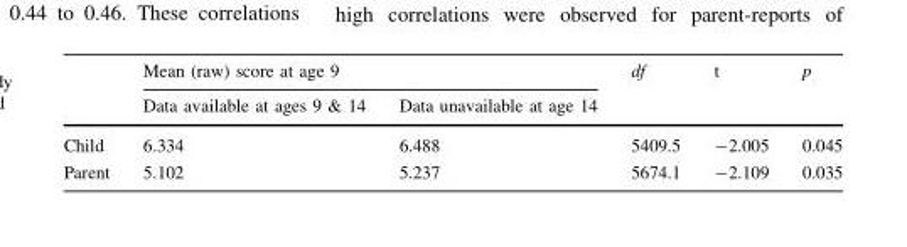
<table><thead><tr><td rowspan="2"></td><td colspan="2">Mean (raw) score at age 9</td><td rowspan="2">df</td><td rowspan="2">t</td><td rowspan="2">p</td></tr><tr><td>Data available at ages 9 &amp; 14</td><td>Data unavailable at age 14</td></tr></thead><tbody><tr><td>Child</td><td>6.334</td><td>6.488</td><td>5409.5</td><td>-2.005</td><td>0.045</td></tr><tr><td>Parent</td><td>5.102</td><td>5.237</td><td>5674.1</td><td>-2.109</td><td>0.035</td></tr></tbody></table>